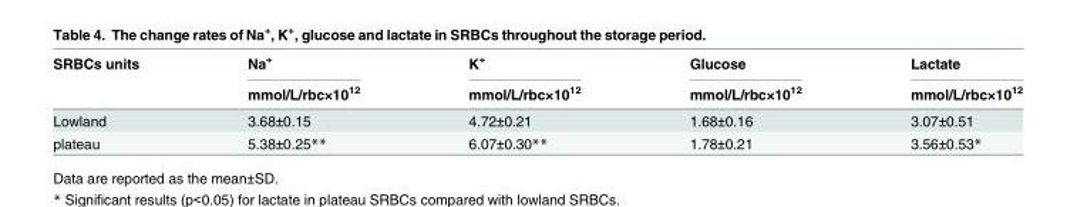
<table><thead><tr><td rowspan="2">SRBCs units</td><td rowspan="2">Na<sup>+</sup> mmol/L/rbc×10<sup>12</sup></td><td rowspan="2">K<sup>+</sup> mmol/L/rbc×10<sup>12</sup></td><td rowspan="2">Glucose mmol/L/rbc×10<sup>12</sup></td><td rowspan="2">Lactate mmol/L/rbc×10<sup>12</sup></td></tr><tr></tr></thead><tbody><tr><td>Lowland</td><td>3.68±0.15</td><td>4.72±0.21</td><td>1.68±0.16</td><td>3.07±0.51</td></tr><tr><td>plateau</td><td>5.38±0.25**</td><td>6.07±0.30**</td><td>1.78±0.21</td><td>3.56±0.53*</td></tr></tbody></table>